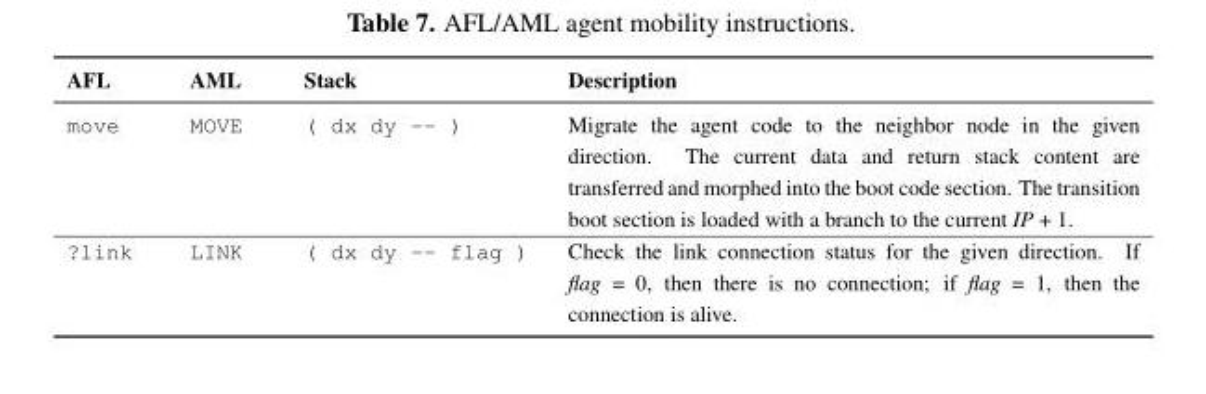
<table><thead><tr><td>AFL</td><td>AML</td><td>Stack</td><td>Description</td></tr></thead><tbody><tr><td>move</td><td>MOVE</td><td>( dx dy -- )</td><td>Migrate the agent code to the neighbor node in the given direction. The current data and return stack content are transferred and morphed into the boot code section. The transition boot section is loaded with a branch to the current IP + 1.</td></tr><tr><td>?link</td><td>LINK</td><td>( dx dy -- flag )</td><td>Check the link connection status for the given direction. If flag = 0, then there is no connection; if flag = 1, then the connection is alive.</td></tr></tbody></table>